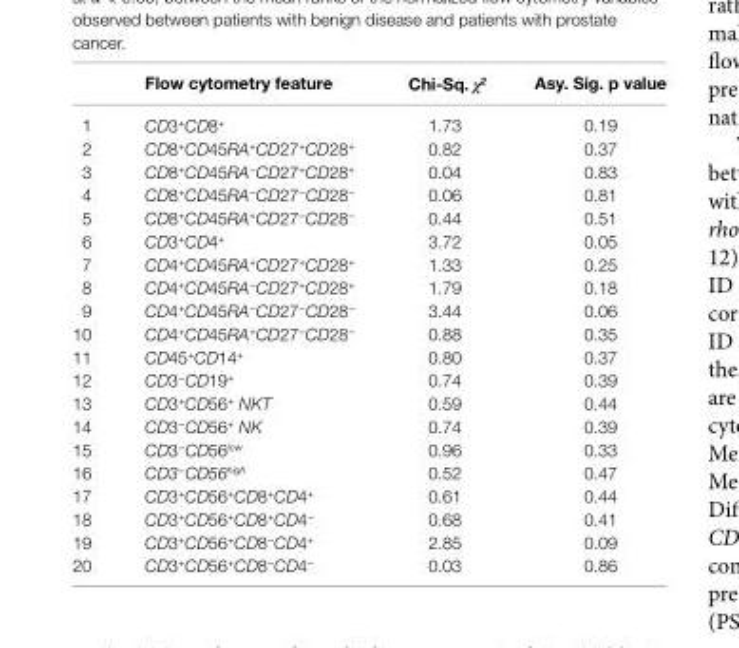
<table><thead><tr><td></td><td>Flow cytometry feature</td><td>chi-sq. χ<sup>2</sup></td><td>asy. sig. p value</td></tr></thead><tbody><tr><td>1</td><td>CD3<sup>+</sup>CD8<sup>+</sup></td><td>1.73</td><td>0.19</td></tr><tr><td>2</td><td>CD8<sup>+</sup>CD45RA<sup>+</sup>CD27<sup>+</sup>CD28<sup>+</sup></td><td>0.82</td><td>0.37</td></tr><tr><td>3</td><td>CD8<sup>+</sup>CD45RA<sup>−</sup>CD27<sup>+</sup>CD28<sup>+</sup></td><td>0.04</td><td>0.83</td></tr><tr><td>4</td><td>CD8<sup>+</sup>CD45RA<sup>−</sup>CD27<sup>−</sup>CD28<sup>−</sup></td><td>0.06</td><td>0.81</td></tr><tr><td>5</td><td>CD8<sup>+</sup>CD45RA<sup>+</sup>CD27<sup>−</sup>CD28<sup>−</sup></td><td>0.44</td><td>0.51</td></tr><tr><td>6</td><td>CD3<sup>+</sup>CD4<sup>+</sup></td><td>3.72</td><td>0.05</td></tr><tr><td>7</td><td>CD4<sup>+</sup>CD45RA<sup>+</sup>CD27<sup>+</sup>CD28<sup>+</sup></td><td>1.33</td><td>0.25</td></tr><tr><td>8</td><td>CD4<sup>+</sup>CD45RA<sup>−</sup>CD27<sup>+</sup>CD28<sup>+</sup></td><td>1.79</td><td>0.18</td></tr><tr><td>9</td><td>CD4<sup>+</sup>CD45RA<sup>−</sup>CD27<sup>−</sup>CD28<sup>−</sup></td><td>3.44</td><td>0.06</td></tr><tr><td>10</td><td>CD4<sup>+</sup>CD45RA<sup>+</sup>CD27<sup>−</sup>CD28<sup>−</sup></td><td>0.88</td><td>0.35</td></tr><tr><td>11</td><td>CD45<sup>+</sup>CD14<sup>+</sup></td><td>0.80</td><td>0.37</td></tr><tr><td>12</td><td>CD3<sup>−</sup>CD19<sup>+</sup></td><td>0.74</td><td>0.39</td></tr><tr><td>13</td><td>CD3<sup>+</sup>CD56<sup>+</sup> NKT</td><td>0.59</td><td>0.44</td></tr><tr><td>14</td><td>CD3<sup>−</sup>CD56<sup>+</sup> NK</td><td>0.74</td><td>0.39</td></tr><tr><td>15</td><td>CD3<sup>−</sup>CD56<sup>low</sup></td><td>0.96</td><td>0.33</td></tr><tr><td>16</td><td>CD3<sup>−</sup>CD56<sup>high</sup></td><td>0.52</td><td>0.47</td></tr><tr><td>17</td><td>CD3<sup>+</sup>CD56<sup>+</sup>CD8<sup>+</sup>CD4<sup>+</sup></td><td>0.61</td><td>0.44</td></tr><tr><td>18</td><td>CD3<sup>+</sup>CD56<sup>+</sup>CD8<sup>+</sup>CD4<sup>−</sup></td><td>0.68</td><td>0.41</td></tr><tr><td>19</td><td>CD3<sup>+</sup>CD56<sup>+</sup>CD8<sup>−</sup>CD4<sup>+</sup></td><td>2.85</td><td>0.09</td></tr><tr><td>20</td><td>CD3<sup>+</sup>CD56<sup>+</sup>CD8<sup>−</sup>CD4<sup>−</sup></td><td>0.03</td><td>0.86</td></tr></tbody></table>